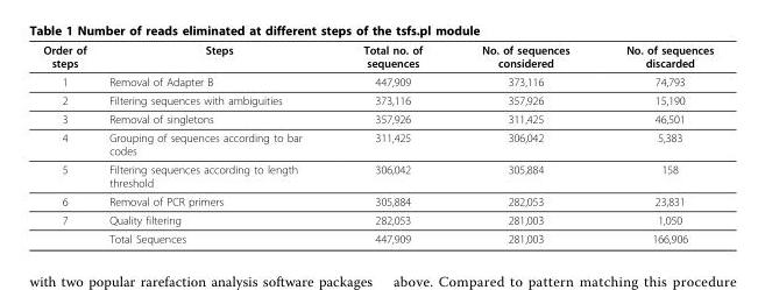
<table><thead><tr><td>Order of steps</td><td>Steps</td><td>Total no. of sequences</td><td>No. of sequences considered</td><td>No. of sequences discarded</td></tr></thead><tbody><tr><td>1</td><td>Removal of Adapter B</td><td>447,909</td><td>373,116</td><td>74,793</td></tr><tr><td>2</td><td>Filtering sequences with ambiguities</td><td>373,116</td><td>357,926</td><td>15,190</td></tr><tr><td>3</td><td>Removal of singletons</td><td>357,926</td><td>311,425</td><td>46,501</td></tr><tr><td>4</td><td>Grouping of sequences according to bar codes</td><td>311,425</td><td>306,042</td><td>5,383</td></tr><tr><td>5</td><td>Filtering sequences according to length threshold</td><td>306,042</td><td>305,884</td><td>158</td></tr><tr><td>6</td><td>Removal of PCR primers</td><td>305,884</td><td>282,053</td><td>23,831</td></tr><tr><td rowspan="2">7</td><td>Quality filtering</td><td>282,053</td><td>281,003</td><td>1,050</td></tr><tr><td>Total Sequences</td><td>447,909</td><td>281,003</td><td>166,906</td></tr></tbody></table>